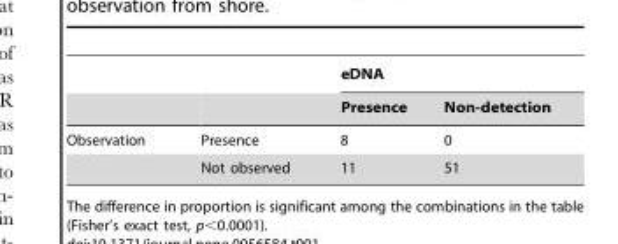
<table><thead><tr><td rowspan="2"></td><td rowspan="2"></td><td colspan="2">eDNA</td></tr><tr><td>Presence</td><td>Non-detection</td></tr></thead><tbody><tr><td rowspan="2">Observation</td><td>Presence</td><td>8</td><td>0</td></tr><tr><td>Not observed</td><td>11</td><td>51</td></tr></tbody></table>